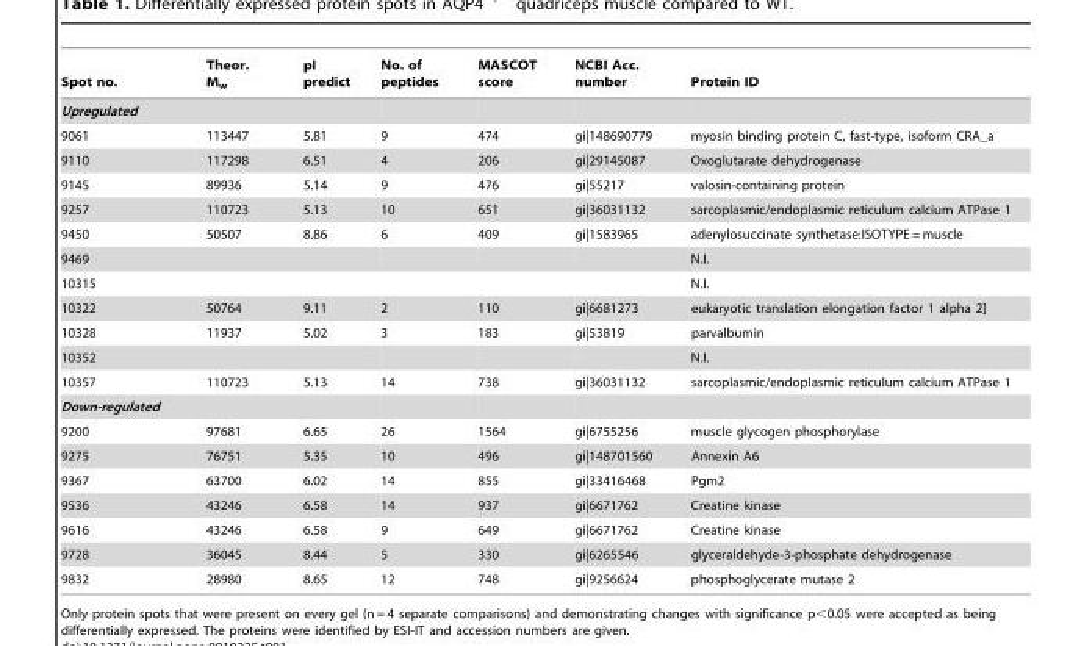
<table><thead><tr><td>Spot no.</td><td>Theor. M<sub>w</sub></td><td>pI predict</td><td>No. of peptides</td><td>MASCOT score</td><td>NCBI Acc. number</td><td>Protein ID</td></tr></thead><tbody><tr><td colspan="7">Upregulated</td></tr><tr><td>9061</td><td>113447</td><td>5.81</td><td>9</td><td>474</td><td>gi|148690779</td><td>myosin binding protein C, fast-type, isoform CRA_a</td></tr><tr><td>9110</td><td>117298</td><td>6.51</td><td>4</td><td>206</td><td>gi|29145087</td><td>Oxoglutarate dehydrogenase</td></tr><tr><td>9145</td><td>89936</td><td>5.14</td><td>9</td><td>476</td><td>gi|55217</td><td>valosin-containing protein</td></tr><tr><td>9257</td><td>110723</td><td>5.13</td><td>10</td><td>651</td><td>gi|36031132</td><td>sarcoplasmic/endoplasmic reticulum calcium ATPase 1</td></tr><tr><td>9450</td><td>50507</td><td>8.86</td><td>6</td><td>409</td><td>gi|1583965</td><td>adenylosuccinate synthetase:ISOTYPE = muscle</td></tr><tr><td>9469</td><td></td><td></td><td></td><td></td><td></td><td>N.I.</td></tr><tr><td>10315</td><td></td><td></td><td></td><td></td><td></td><td>N.I.</td></tr><tr><td>10322</td><td>50764</td><td>9.11</td><td>2</td><td>110</td><td>gi|6681273</td><td>eukaryotic translation elongation factor 1 alpha 2]</td></tr><tr><td>10328</td><td>11937</td><td>5.02</td><td>3</td><td>183</td><td>gi|53819</td><td>parvalbumin</td></tr><tr><td>10352</td><td></td><td></td><td></td><td></td><td></td><td>N.I.</td></tr><tr><td>10357</td><td>110723</td><td>5.13</td><td>14</td><td>738</td><td>gi|36031132</td><td>sarcoplasmic/endoplasmic reticulum calcium ATPase 1</td></tr><tr><td colspan="7">Down-regulated</td></tr><tr><td>9200</td><td>97681</td><td>6.65</td><td>26</td><td>1564</td><td>gi|6755256</td><td>muscle glycogen phosphorylase</td></tr><tr><td>9275</td><td>76751</td><td>5.35</td><td>10</td><td>496</td><td>gi|148701560</td><td>Annexin A6</td></tr><tr><td>9367</td><td>63700</td><td>6.02</td><td>14</td><td>855</td><td>gi|33416468</td><td>Pgm2</td></tr><tr><td>9536</td><td>43246</td><td>6.58</td><td>14</td><td>937</td><td>gi|6671762</td><td>Creatine kinase</td></tr><tr><td>9616</td><td>43246</td><td>6.58</td><td>9</td><td>649</td><td>gi|6671762</td><td>Creatine kinase</td></tr><tr><td>9728</td><td>36045</td><td>8.44</td><td>5</td><td>330</td><td>gi|6265546</td><td>glyceraldehyde-3-phosphate dehydrogenase</td></tr><tr><td>9832</td><td>28980</td><td>8.65</td><td>12</td><td>748</td><td>gi|9256624</td><td>phosphoglycerate mutase 2</td></tr></tbody></table>